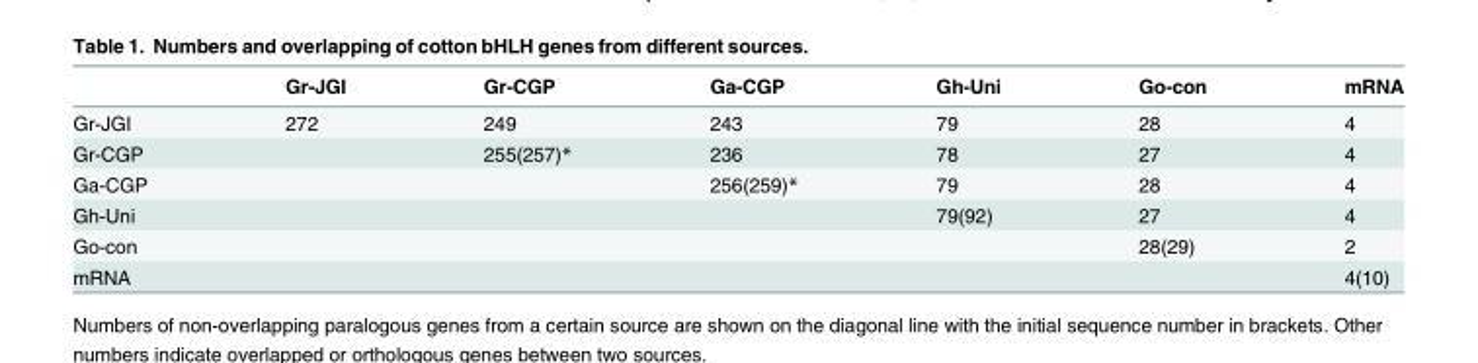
<table><thead><tr><td></td><td>Gr-JGI</td><td>Gr-CGP</td><td>Ga-CGP</td><td>Gh-Uni</td><td>Go-con</td><td>mRNA</td></tr></thead><tbody><tr><td>Gr-JGI</td><td>272</td><td>249</td><td>243</td><td>79</td><td>28</td><td>4</td></tr><tr><td>Gr-CGP</td><td></td><td>255(257)*</td><td>236</td><td>78</td><td>27</td><td>4</td></tr><tr><td>Ga-CGP</td><td></td><td></td><td>256(259)*</td><td>79</td><td>28</td><td>4</td></tr><tr><td>Gh-Uni</td><td></td><td></td><td></td><td>79(92)</td><td>27</td><td>4</td></tr><tr><td>Go-con</td><td></td><td></td><td></td><td></td><td>28(29)</td><td>2</td></tr><tr><td>mRNA</td><td></td><td></td><td></td><td></td><td></td><td>4(10)</td></tr></tbody></table>